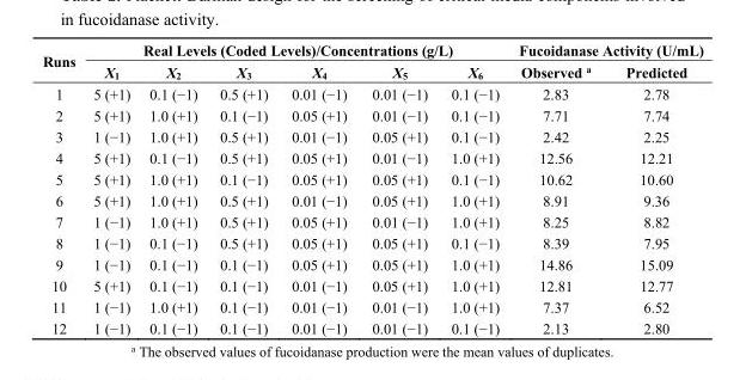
<table><thead><tr><td rowspan="2">Runs</td><td colspan="6">Real Levels (Coded Levels)/Concentrations (g/L)</td><td colspan="2">Fucoidanase Activity (U/mL)</td></tr><tr><td>X<sub>1</sub></td><td>X<sub>2</sub></td><td>X<sub>3</sub></td><td>X<sub>4</sub></td><td>X<sub>5</sub></td><td>X<sub>6</sub></td><td>Observed <sup>a</sup></td><td>Predicted</td></tr></thead><tbody><tr><td>1</td><td>5 (+1)</td><td>0.1 (−1)</td><td>0.5 (+1)</td><td>0.01 (−1)</td><td>0.01 (−1)</td><td>0.1 (−1)</td><td>2.83</td><td>2.78</td></tr><tr><td>2</td><td>5 (+1)</td><td>1.0 (+1)</td><td>0.1 (−1)</td><td>0.05 (+1)</td><td>0.01 (−1)</td><td>0.1 (−1)</td><td>7.71</td><td>7.74</td></tr><tr><td>3</td><td>1 (−1)</td><td>1.0 (+1)</td><td>0.5 (+1)</td><td>0.01 (−1)</td><td>0.05 (+1)</td><td>0.1 (−1)</td><td>2.42</td><td>2.25</td></tr><tr><td>4</td><td>5 (+1)</td><td>0.1 (−1)</td><td>0.5 (+1)</td><td>0.05 (+1)</td><td>0.01 (−1)</td><td>1.0 (+1)</td><td>12.56</td><td>12.21</td></tr><tr><td>5</td><td>5 (+1)</td><td>1.0 (+1)</td><td>0.1 (−1)</td><td>0.05 (+1)</td><td>0.05 (+1)</td><td>0.1 (−1)</td><td>10.62</td><td>10.60</td></tr><tr><td>6</td><td>5 (+1)</td><td>1.0 (+1)</td><td>0.5 (+1)</td><td>0.01 (−1)</td><td>0.05 (+1)</td><td>1.0 (+1)</td><td>8.91</td><td>9.36</td></tr><tr><td>7</td><td>1 (−1)</td><td>1.0 (+1)</td><td>0.5 (+1)</td><td>0.05 (+1)</td><td>0.01 (−1)</td><td>1.0 (+1)</td><td>8.25</td><td>8.82</td></tr><tr><td>8</td><td>1 (−1)</td><td>0.1 (−1)</td><td>0.5 (+1)</td><td>0.05 (+1)</td><td>0.05 (+1)</td><td>0.1 (−1)</td><td>8.39</td><td>7.95</td></tr><tr><td>9</td><td>1 (−1)</td><td>0.1 (−1)</td><td>0.1 (−1)</td><td>0.05 (+1)</td><td>0.05 (+1)</td><td>1.0 (+1)</td><td>14.86</td><td>15.09</td></tr><tr><td>10</td><td>5 (+1)</td><td>0.1 (−1)</td><td>0.1 (−1)</td><td>0.01 (−1)</td><td>0.05 (+1)</td><td>1.0 (+1)</td><td>12.81</td><td>12.77</td></tr><tr><td>11</td><td>1 (−1)</td><td>1.0 (+1)</td><td>0.1 (−1)</td><td>0.01 (−1)</td><td>0.01 (−1)</td><td>1.0 (+1)</td><td>7.37</td><td>6.52</td></tr><tr><td>12</td><td>1 (−1)</td><td>0.1 (−1)</td><td>0.1 (−1)</td><td>0.01 (−1)</td><td>0.01 (−1)</td><td>0.1 (−1)</td><td>2.13</td><td>2.80</td></tr></tbody></table>